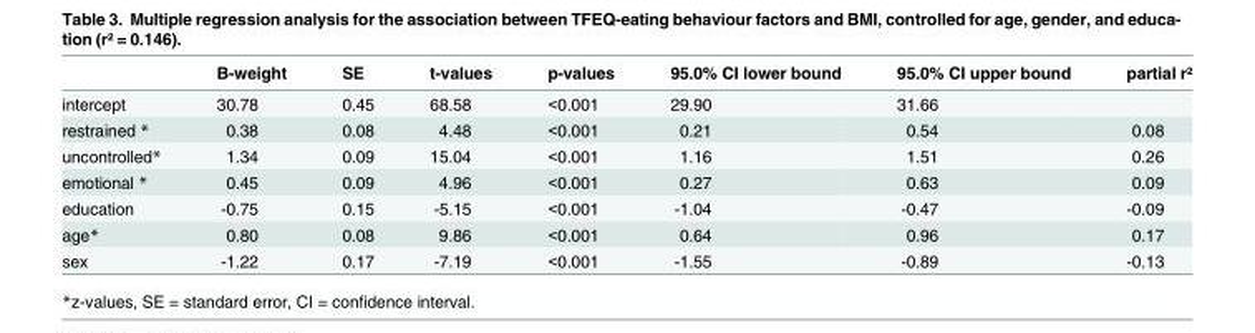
<table><thead><tr><td></td><td>B-weight</td><td>SE</td><td>t-values</td><td>p-values</td><td>95.0% CI lower bound</td><td>95.0% CI upper bound</td><td>partial r²</td></tr></thead><tbody><tr><td>intercept</td><td>30.78</td><td>0.45</td><td>68.58</td><td>&lt;0.001</td><td>29.90</td><td>31.66</td><td></td></tr><tr><td>restrained *</td><td>0.38</td><td>0.08</td><td>4.48</td><td>&lt;0.001</td><td>0.21</td><td>0.54</td><td>0.08</td></tr><tr><td>uncontrolled*</td><td>1.34</td><td>0.09</td><td>15.04</td><td>&lt;0.001</td><td>1.16</td><td>1.51</td><td>0.26</td></tr><tr><td>emotional *</td><td>0.45</td><td>0.09</td><td>4.96</td><td>&lt;0.001</td><td>0.27</td><td>0.63</td><td>0.09</td></tr><tr><td>education</td><td>-0.75</td><td>0.15</td><td>-5.15</td><td>&lt;0.001</td><td>-1.04</td><td>-0.47</td><td>-0.09</td></tr><tr><td>age*</td><td>0.80</td><td>0.08</td><td>9.86</td><td>&lt;0.001</td><td>0.64</td><td>0.96</td><td>0.17</td></tr><tr><td>sex</td><td>-1.22</td><td>0.17</td><td>-7.19</td><td>&lt;0.001</td><td>-1.55</td><td>-0.89</td><td>-0.13</td></tr></tbody></table>